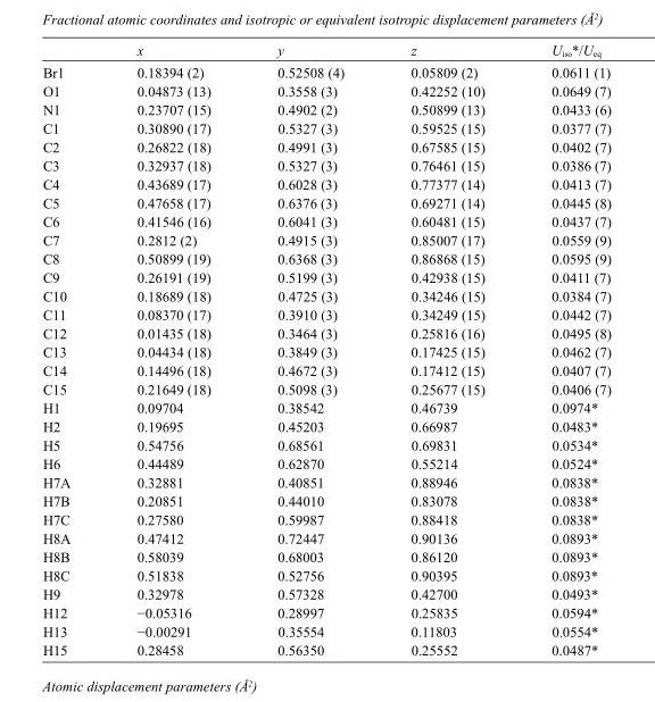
<table><thead><tr><td></td><td>x</td><td>y</td><td>z</td><td>U<sub>iso</sub>*/U<sub>eq</sub></td></tr></thead><tbody><tr><td>Br1</td><td>0.18394 (2)</td><td>0.52508 (4)</td><td>0.05809 (2)</td><td>0.0611 (1)</td></tr><tr><td>O1</td><td>0.04873 (13)</td><td>0.3558 (3)</td><td>0.42252 (10)</td><td>0.0649 (7)</td></tr><tr><td>N1</td><td>0.23707 (15)</td><td>0.4902 (2)</td><td>0.50899 (13)</td><td>0.0433 (6)</td></tr><tr><td>C1</td><td>0.30890 (17)</td><td>0.5327 (3)</td><td>0.59525 (15)</td><td>0.0377 (7)</td></tr><tr><td>C2</td><td>0.26822 (18)</td><td>0.4991 (3)</td><td>0.67585 (15)</td><td>0.0402 (7)</td></tr><tr><td>C3</td><td>0.32937 (18)</td><td>0.5327 (3)</td><td>0.76461 (15)</td><td>0.0386 (7)</td></tr><tr><td>C4</td><td>0.43689 (17)</td><td>0.6028 (3)</td><td>0.77377 (14)</td><td>0.0413 (7)</td></tr><tr><td>C5</td><td>0.47658 (17)</td><td>0.6376 (3)</td><td>0.69271 (14)</td><td>0.0445 (8)</td></tr><tr><td>C6</td><td>0.41546 (16)</td><td>0.6041 (3)</td><td>0.60481 (15)</td><td>0.0437 (7)</td></tr><tr><td>C7</td><td>0.2812 (2)</td><td>0.4915 (3)</td><td>0.85007 (17)</td><td>0.0559 (9)</td></tr><tr><td>C8</td><td>0.50899 (19)</td><td>0.6368 (3)</td><td>0.86868 (15)</td><td>0.0595 (9)</td></tr><tr><td>C9</td><td>0.26191 (19)</td><td>0.5199 (3)</td><td>0.42938 (15)</td><td>0.0411 (7)</td></tr><tr><td>C10</td><td>0.18689 (18)</td><td>0.4725 (3)</td><td>0.34246 (15)</td><td>0.0384 (7)</td></tr><tr><td>C11</td><td>0.08370 (17)</td><td>0.3910 (3)</td><td>0.34249 (15)</td><td>0.0442 (7)</td></tr><tr><td>C12</td><td>0.01435 (18)</td><td>0.3464 (3)</td><td>0.25816 (16)</td><td>0.0495 (8)</td></tr><tr><td>C13</td><td>0.04434 (18)</td><td>0.3849 (3)</td><td>0.17425 (15)</td><td>0.0462 (7)</td></tr><tr><td>C14</td><td>0.14496 (18)</td><td>0.4672 (3)</td><td>0.17412 (15)</td><td>0.0407 (7)</td></tr><tr><td>C15</td><td>0.21649 (18)</td><td>0.5098 (3)</td><td>0.25677 (15)</td><td>0.0406 (7)</td></tr><tr><td>H1</td><td>0.09704</td><td>0.38542</td><td>0.46739</td><td>0.0974*</td></tr><tr><td>H2</td><td>0.19695</td><td>0.45203</td><td>0.66987</td><td>0.0483*</td></tr><tr><td>H5</td><td>0.54756</td><td>0.68561</td><td>0.69831</td><td>0.0534*</td></tr><tr><td>H6</td><td>0.44489</td><td>0.62870</td><td>0.55214</td><td>0.0524*</td></tr><tr><td>H7A</td><td>0.32881</td><td>0.40851</td><td>0.88946</td><td>0.0838*</td></tr><tr><td>H7B</td><td>0.20851</td><td>0.44010</td><td>0.83078</td><td>0.0838*</td></tr><tr><td>H7C</td><td>0.27580</td><td>0.59987</td><td>0.88418</td><td>0.0838*</td></tr><tr><td>H8A</td><td>0.47412</td><td>0.72447</td><td>0.90136</td><td>0.0893*</td></tr><tr><td>H8B</td><td>0.58039</td><td>0.68003</td><td>0.86120</td><td>0.0893*</td></tr><tr><td>H8C</td><td>0.51838</td><td>0.52756</td><td>0.90395</td><td>0.0893*</td></tr><tr><td>H9</td><td>0.32978</td><td>0.57328</td><td>0.42700</td><td>0.0493*</td></tr><tr><td>H12</td><td>−0.05316</td><td>0.28997</td><td>0.25835</td><td>0.0594*</td></tr><tr><td>H13</td><td>−0.00291</td><td>0.35554</td><td>0.11803</td><td>0.0554*</td></tr><tr><td>H15</td><td>0.28458</td><td>0.56350</td><td>0.25552</td><td>0.0487*</td></tr></tbody></table>